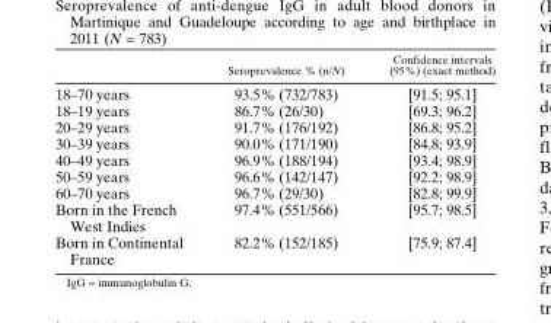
<table><thead><tr><td></td><td>Seroprevalence % (n/N)</td><td>Confidence intervals (95%) (exact method)</td></tr></thead><tbody><tr><td>18–70 years</td><td>93.5% (732/783)</td><td>[91.5; 95.1]</td></tr><tr><td>18–19 years</td><td>86.7% (26/30)</td><td>[69.3; 96.2]</td></tr><tr><td>20–29 years</td><td>91.7% (176/192)</td><td>[86.8; 95.2]</td></tr><tr><td>30–39 years</td><td>90.0% (171/190)</td><td>[84.8; 93.9]</td></tr><tr><td>40–49 years</td><td>96.9% (188/194)</td><td>[93.4; 98.9]</td></tr><tr><td>50–59 years</td><td>96.6% (142/147)</td><td>[92.2; 98.9]</td></tr><tr><td>60–70 years</td><td>96.7% (29/30)</td><td>[82.8; 99.9]</td></tr><tr><td>Born in the French West Indies</td><td>97.4% (551/566)</td><td>[95.7; 98.5]</td></tr><tr><td>Born in Continental France</td><td>82.2% (152/185)</td><td>[75.9; 87.4]</td></tr></tbody></table>